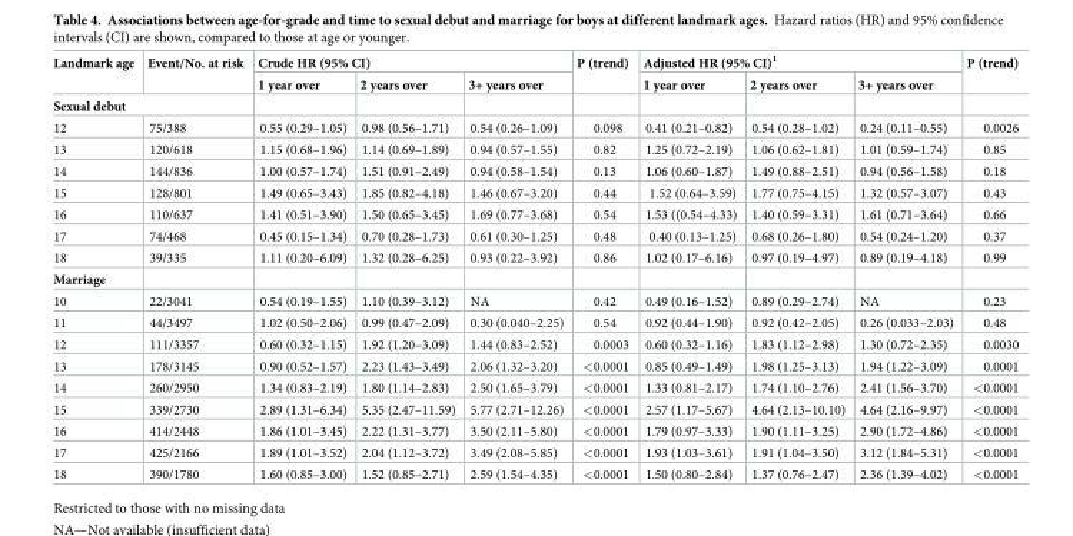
<table><thead><tr><td rowspan="2">Landmark age</td><td rowspan="2">Event/No. at risk</td><td colspan="3">Crude HR (95% CI)</td><td rowspan="2">P (trend)</td><td colspan="3">Adjusted HR (95% CI)<sup>1</sup></td><td rowspan="2">P (trend)</td></tr><tr><td>1 year over</td><td>2 years over</td><td>3+ years over</td><td>1 year over</td><td>2 years over</td><td>3+ years over</td></tr></thead><tbody><tr><td colspan="10">Sexual debut</td></tr><tr><td>12</td><td>75/388</td><td>0.55 (0.29–1.05)</td><td>0.98 (0.56–1.71)</td><td>0.54 (0.26–1.09)</td><td>0.098</td><td>0.41 (0.21–0.82)</td><td>0.54 (0.28–1.02)</td><td>0.24 (0.11–0.55)</td><td>0.0026</td></tr><tr><td>13</td><td>120/618</td><td>1.15 (0.68–1.96)</td><td>1.14 (0.69–1.89)</td><td>0.94 (0.57–1.55)</td><td>0.82</td><td>1.25 (0.72–2.19)</td><td>1.06 (0.62–1.81)</td><td>1.01 (0.59–1.74)</td><td>0.85</td></tr><tr><td>14</td><td>144/836</td><td>1.00 (0.57–1.74)</td><td>1.51 (0.91–2.49)</td><td>0.94 (0.58–1.54)</td><td>0.13</td><td>1.06 (0.60–1.87)</td><td>1.49 (0.88–2.51)</td><td>0.94 (0.56–1.58)</td><td>0.18</td></tr><tr><td>15</td><td>128/801</td><td>1.49 (0.65–3.43)</td><td>1.85 (0.82–4.18)</td><td>1.46 (0.67–3.20)</td><td>0.44</td><td>1.52 (0.64–3.59)</td><td>1.77 (0.75–4.15)</td><td>1.32 (0.57–3.07)</td><td>0.43</td></tr><tr><td>16</td><td>110/637</td><td>1.41 (0.51–3.90)</td><td>1.50 (0.65–3.45)</td><td>1.69 (0.77–3.68)</td><td>0.54</td><td>1.53 ((0.54–4.33)</td><td>1.40 (0.59–3.31)</td><td>1.61 (0.71–3.64)</td><td>0.66</td></tr><tr><td>17</td><td>74/468</td><td>0.45 (0.15–1.34)</td><td>0.70 (0.28–1.73)</td><td>0.61 (0.30–1.25)</td><td>0.48</td><td>0.40 (0.13–1.25)</td><td>0.68 (0.26–1.80)</td><td>0.54 (0.24–1.20)</td><td>0.37</td></tr><tr><td>18</td><td>39/335</td><td>1.11 (0.20–6.09)</td><td>1.32 (0.28–6.25)</td><td>0.93 (0.22–3.92)</td><td>0.86</td><td>1.02 (0.17–6.16)</td><td>0.97 (0.19–4.97)</td><td>0.89 (0.19–4.18)</td><td>0.99</td></tr><tr><td colspan="10">Marriage</td></tr><tr><td>10</td><td>22/3041</td><td>0.54 (0.19–1.55)</td><td>1.10 (0.39–3.12)</td><td>NA</td><td>0.42</td><td>0.49 (0.16–1.52)</td><td>0.89 (0.29–2.74)</td><td>NA</td><td>0.23</td></tr><tr><td>11</td><td>44/3497</td><td>1.02 (0.50–2.06)</td><td>0.99 (0.47–2.09)</td><td>0.30 (0.040–2.25)</td><td>0.54</td><td>0.92 (0.44–1.90)</td><td>0.92 (0.42–2.05)</td><td>0.26 (0.033–2.03)</td><td>0.48</td></tr><tr><td>12</td><td>111/3357</td><td>0.60 (0.32–1.15)</td><td>1.92 (1.20–3.09)</td><td>1.44 (0.83–2.52)</td><td>0.0003</td><td>0.60 (0.32–1.16)</td><td>1.83 (1.12–2.98)</td><td>1.30 (0.72–2.35)</td><td>0.0030</td></tr><tr><td>13</td><td>178/3145</td><td>0.90 (0.52–1.57)</td><td>2.23 (1.43–3.49)</td><td>2.06 (1.32–3.20)</td><td>&lt;0.0001</td><td>0.85 (0.49–1.49)</td><td>1.98 (1.25–3.13)</td><td>1.94 (1.22–3.09)</td><td>0.0001</td></tr><tr><td>14</td><td>260/2950</td><td>1.34 (0.83–2.19)</td><td>1.80 (1.14–2.83)</td><td>2.50 (1.65–3.79)</td><td>&lt;0.0001</td><td>1.33 (0.81–2.17)</td><td>1.74 (1.10–2.76)</td><td>2.41 (1.56–3.70)</td><td>&lt;0.0001</td></tr><tr><td>15</td><td>339/2730</td><td>2.89 (1.31–6.34)</td><td>5.35 (2.47–11.59)</td><td>5.77 (2.71–12.26)</td><td>&lt;0.0001</td><td>2.57 (1.17–5.67)</td><td>4.64 (2.13–10.10)</td><td>4.64 (2.16–9.97)</td><td>&lt;0.0001</td></tr><tr><td>16</td><td>414/2448</td><td>1.86 (1.01–3.45)</td><td>2.22 (1.31–3.77)</td><td>3.50 (2.11–5.80)</td><td>&lt;0.0001</td><td>1.79 (0.97–3.33)</td><td>1.90 (1.11–3.25)</td><td>2.90 (1.72–4.86)</td><td>&lt;0.0001</td></tr><tr><td>17</td><td>425/2166</td><td>1.89 (1.01–3.52)</td><td>2.04 (1.12–3.72)</td><td>3.49 (2.08–5.85)</td><td>&lt;0.0001</td><td>1.93 (1.03–3.61)</td><td>1.91 (1.04–3.50)</td><td>3.12 (1.84–5.31)</td><td>&lt;0.0001</td></tr><tr><td>18</td><td>390/1780</td><td>1.60 (0.85–3.00)</td><td>1.52 (0.85–2.71)</td><td>2.59 (1.54–4.35)</td><td>&lt;0.0001</td><td>1.50 (0.80–2.84)</td><td>1.37 (0.76–2.47)</td><td>2.36 (1.39–4.02)</td><td>&lt;0.0001</td></tr></tbody></table>